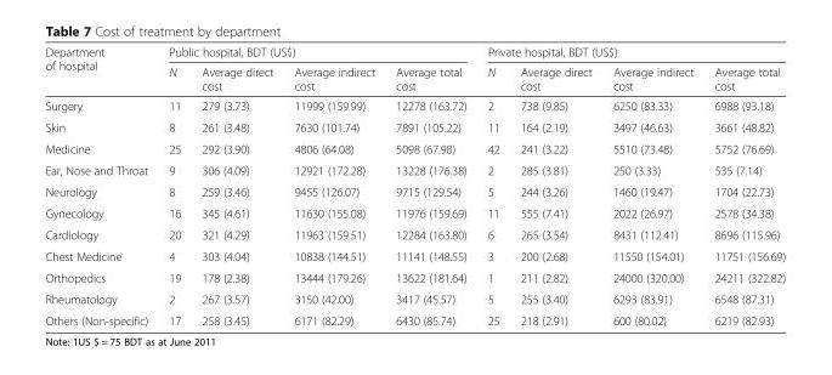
<table><thead><tr><td rowspan="2">Department of hospital</td><td colspan="4">Public hospital, BDT (US$)</td><td colspan="4">Private hospital, BDT (US$)</td></tr><tr><td>N</td><td>Average direct cost</td><td>Average indirect cost</td><td>Average total cost</td><td>N</td><td>Average direct cost</td><td>Average indirect cost</td><td>Average total cost</td></tr></thead><tbody><tr><td>Surgery</td><td>11</td><td>279 (3.73)</td><td>11999 (159.99)</td><td>12278 (163.72)</td><td>2</td><td>738 (9.85)</td><td>6250 (83.33)</td><td>6988 (93.18)</td></tr><tr><td>Skin</td><td>8</td><td>261 (3.48)</td><td>7630 (101.74)</td><td>7891 (105.22)</td><td>11</td><td>164 (2.19)</td><td>3497 (46.63)</td><td>3661 (48.82)</td></tr><tr><td>Medicine</td><td>25</td><td>292 (3.90)</td><td>4806 (64.08)</td><td>5098 (67.98)</td><td>42</td><td>241 (3.22)</td><td>5510 (73.48)</td><td>5752 (76.69)</td></tr><tr><td>Ear, Nose and Throat</td><td>9</td><td>306 (4.09)</td><td>12921 (172.28)</td><td>13228 (176.38)</td><td>2</td><td>285 (3.81)</td><td>250 (3.33)</td><td>535 (7.14)</td></tr><tr><td>Neurology</td><td>8</td><td>259 (3.46)</td><td>9455 (126.07)</td><td>9715 (129.54)</td><td>5</td><td>244 (3.26)</td><td>1460 (19.47)</td><td>1704 (22.73)</td></tr><tr><td>Gynecology</td><td>16</td><td>345 (4.61)</td><td>11630 (155.08)</td><td>11976 (159.69)</td><td>11</td><td>555 (7.41)</td><td>2022 (26.97)</td><td>2578 (34.38)</td></tr><tr><td>Cardiology</td><td>20</td><td>321 (4.29)</td><td>11963 (159.51)</td><td>12284 (163.80)</td><td>6</td><td>265 (3.54)</td><td>8431 (112.41)</td><td>8696 (115.96)</td></tr><tr><td>Chest Medicine</td><td>4</td><td>303 (4.04)</td><td>10838 (144.51)</td><td>11141 (148.55)</td><td>3</td><td>200 (2.68)</td><td>11550 (154.01)</td><td>11751 (156.69)</td></tr><tr><td>Orthopedics</td><td>19</td><td>178 (2.38)</td><td>13444 (179.26)</td><td>13622 (181.64)</td><td>1</td><td>211 (2.82)</td><td>24000 (320.00)</td><td>24211 (322.82)</td></tr><tr><td>Rheumatology</td><td>2</td><td>267 (3.57)</td><td>3150 (42.00)</td><td>3417 (45.57)</td><td>5</td><td>255 (3.40)</td><td>6293 (83.91)</td><td>6548 (87.31)</td></tr><tr><td>Others (Non-specific)</td><td>17</td><td>258 (3.45)</td><td>6171 (82.29)</td><td>6430 (85.74)</td><td>25</td><td>218 (2.91)</td><td>600 (80.02)</td><td>6219 (82.93)</td></tr></tbody></table>